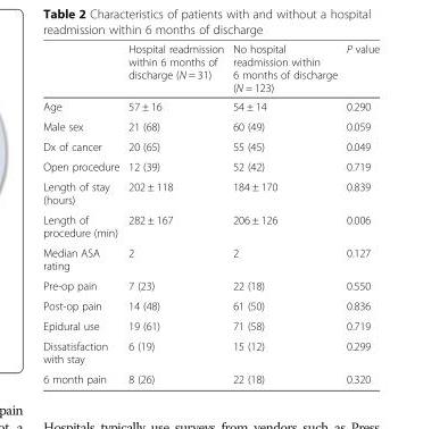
<table><thead><tr><td></td><td>Hospital readmission within 6 months of discharge (N = 31)</td><td>No hospital readmission within 6 months of discharge (N = 123)</td><td>P value</td></tr></thead><tbody><tr><td>Age</td><td>57 ± 16</td><td>54 ± 14</td><td>0.290</td></tr><tr><td>Male sex</td><td>21 (68)</td><td>60 (49)</td><td>0.059</td></tr><tr><td>Dx of cancer</td><td>20 (65)</td><td>55 (45)</td><td>0.049</td></tr><tr><td>Open procedure</td><td>12 (39)</td><td>52 (42)</td><td>0.719</td></tr><tr><td>Length of stay (hours)</td><td>202 ± 118</td><td>184 ± 170</td><td>0.839</td></tr><tr><td>Length of procedure (min)</td><td>282 ± 167</td><td>206 ± 126</td><td>0.006</td></tr><tr><td>Median ASA rating</td><td>2</td><td>2</td><td>0.127</td></tr><tr><td>Pre-op pain</td><td>7 (23)</td><td>22 (18)</td><td>0.550</td></tr><tr><td>Post-op pain</td><td>14 (48)</td><td>61 (50)</td><td>0.836</td></tr><tr><td>Epidural use</td><td>19 (61)</td><td>71 (58)</td><td>0.719</td></tr><tr><td>Dissatisfaction with stay</td><td>6 (19)</td><td>15 (12)</td><td>0.299</td></tr><tr><td>6 month pain</td><td>8 (26)</td><td>22 (18)</td><td>0.320</td></tr></tbody></table>